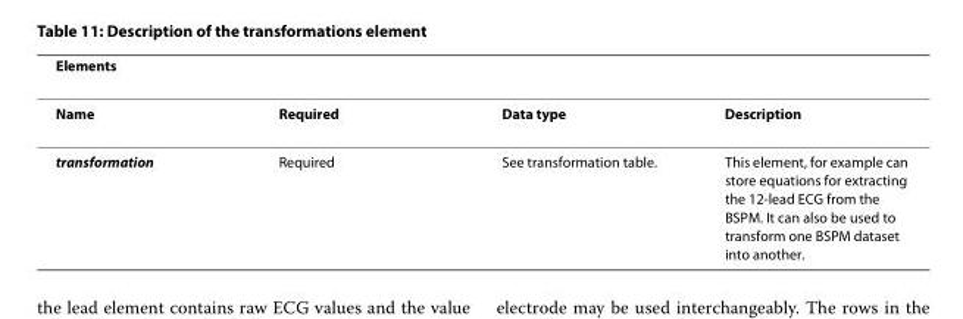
<table><thead><tr><td>Elements</td><td></td><td></td><td></td></tr></thead><tbody><tr><td>Name</td><td>Required</td><td>Data type</td><td>Description</td></tr><tr><td>transformation</td><td>Required</td><td>See transformation table.</td><td>This element, for example can store equations for extracting the 12-lead ECG from the BSPM. It can also be used to transform one BSPM dataset into another.</td></tr></tbody></table>